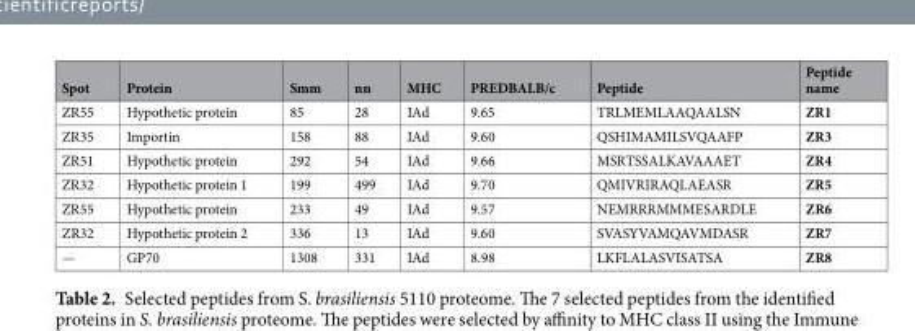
<table><thead><tr><td>Spot</td><td>Protein</td><td>Smm</td><td>nn</td><td>MHC</td><td>PREDBALB/c</td><td>Peptide</td><td>Peptide name</td></tr></thead><tbody><tr><td>ZR55</td><td>Hypothetic protein</td><td>85</td><td>28</td><td>IAd</td><td>9.65</td><td>TRLMEMLAAQAALSN</td><td>ZR1</td></tr><tr><td>ZR35</td><td>Importin</td><td>158</td><td>88</td><td>IAd</td><td>9.60</td><td>QSHIMAMILSVQAAFP</td><td>ZR3</td></tr><tr><td>ZR51</td><td>Hypothetic protein</td><td>292</td><td>54</td><td>IAd</td><td>9.66</td><td>MSRTSSALKAVAAAET</td><td>ZR4</td></tr><tr><td>ZR32</td><td>Hypothetic protein 1</td><td>199</td><td>499</td><td>IAd</td><td>9.70</td><td>QMIVRIRAQLAEASR</td><td>ZR5</td></tr><tr><td>ZR55</td><td>Hypothetic protein</td><td>233</td><td>49</td><td>IAd</td><td>9.57</td><td>NEMRRRMMMESARDLE</td><td>ZR6</td></tr><tr><td>ZR32</td><td>Hypothetic protein 2</td><td>336</td><td>13</td><td>IAd</td><td>9.60</td><td>SVASYVAMQAVMDASR</td><td>ZR7</td></tr><tr><td>—</td><td>GP70</td><td>1308</td><td>331</td><td>IAd</td><td>8.98</td><td>LKFLALASVISATSA</td><td>ZR8</td></tr></tbody></table>